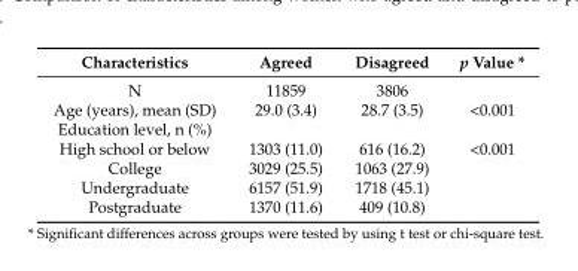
<table><thead><tr><td>Characteristics</td><td>Agreed</td><td>Disagreed</td><td>p Value *</td></tr></thead><tbody><tr><td>N</td><td>11859</td><td>3806</td><td></td></tr><tr><td>Age (years), mean (SD)</td><td>29.0 (3.4)</td><td>28.7 (3.5)</td><td>&lt;0.001</td></tr><tr><td colspan="4">Education level, n (%)</td></tr><tr><td>High school or below</td><td>1303 (11.0)</td><td>616 (16.2)</td><td>&lt;0.001</td></tr><tr><td>College</td><td>3029 (25.5)</td><td>1063 (27.9)</td><td></td></tr><tr><td>Undergraduate</td><td>6157 (51.9)</td><td>1718 (45.1)</td><td></td></tr><tr><td>Postgraduate</td><td>1370 (11.6)</td><td>409 (10.8)</td><td></td></tr></tbody></table>